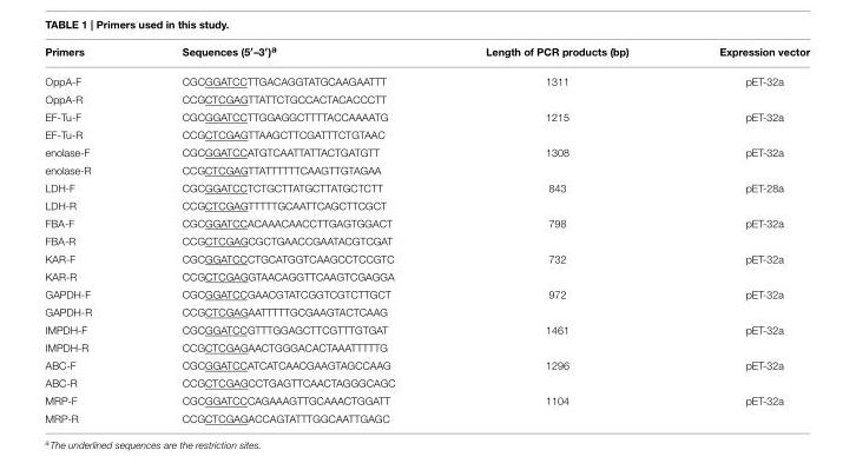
<table><thead><tr><td>Primers</td><td>Sequences (5′–3′)<sup>a</sup></td><td>Length of PCR products (bp)</td><td>Expression vector</td></tr></thead><tbody><tr><td>OppA-F</td><td>CGCGGATCCTTGACAGGTATGCAAGAATTT</td><td>1311</td><td>pET-32a</td></tr><tr><td>OppA-R</td><td>CCGCTCGAGTTATTCTGCCACTACACCCTT</td><td></td><td></td></tr><tr><td>EF-Tu-F</td><td>CGCGGATCCTTGGAGGCTTTTACCAAAATG</td><td>1215</td><td>pET-32a</td></tr><tr><td>EF-Tu-R</td><td>CCGCTCGAGTTAAGCTTCGATTTCTGTAAC</td><td></td><td></td></tr><tr><td>enolase-F</td><td>CGCGGATCCATGTCAATTATTACTGATGTT</td><td>1308</td><td>pET-32a</td></tr><tr><td>enolase-R</td><td>CCGCTCGAGTTATTTTTTCAAGTTGTAGAA</td><td></td><td></td></tr><tr><td>LDH-F</td><td>CGCGGATCCTCTGCTTATGCTTATGCTCTT</td><td>843</td><td>pET-28a</td></tr><tr><td>LDH-R</td><td>CCGCTCGAGTTTTTGCAATTCAGCTTCGCT</td><td></td><td></td></tr><tr><td>FBA-F</td><td>CGCGGATCCACAAACAACCTTGAGTGGACT</td><td>798</td><td>pET-32a</td></tr><tr><td>FBA-R</td><td>CCGCTCGAGCGCTGAACCGAATACGTCGAT</td><td></td><td></td></tr><tr><td>KAR-F</td><td>CGCGGATCCCTGCATGGTCAAGCCTCCGTC</td><td>732</td><td>pET-32a</td></tr><tr><td>KAR-R</td><td>CCGCTCGAGGTAACAGGTTCAAGTCGAGGA</td><td></td><td></td></tr><tr><td>GAPDH-F</td><td>CGCGGATCCGAACGTATCGGTCGTCTTGCT</td><td>972</td><td>pET-32a</td></tr><tr><td>GAPDH-R</td><td>CCGCTCGAGAATTTTTGCGAAGTACTCAAG</td><td></td><td></td></tr><tr><td>IMPDH-F</td><td>CGCGGATCCGTTTGGAGCTTCGTTTGTGAT</td><td>1461</td><td>pET-32a</td></tr><tr><td>IMPDH-R</td><td>CCGCTCGAGAACTGGGACACTAAATTTTTG</td><td></td><td></td></tr><tr><td>ABC-F</td><td>CGCGGATCCATCATCAACGAAGTAGCCAAG</td><td>1296</td><td>pET-32a</td></tr><tr><td>ABC-R</td><td>CCGCTCGAGCCTGAGTTCAACTAGGGCAGC</td><td></td><td></td></tr><tr><td>MRP-F</td><td>CGCGGATCCCAGAAAGTTGCAAACTGGATT</td><td>1104</td><td>pET-32a</td></tr><tr><td>MRP-R</td><td>CCGCTCGAGACCAGTATTTGGCAATTGAGC</td><td></td><td></td></tr></tbody></table>